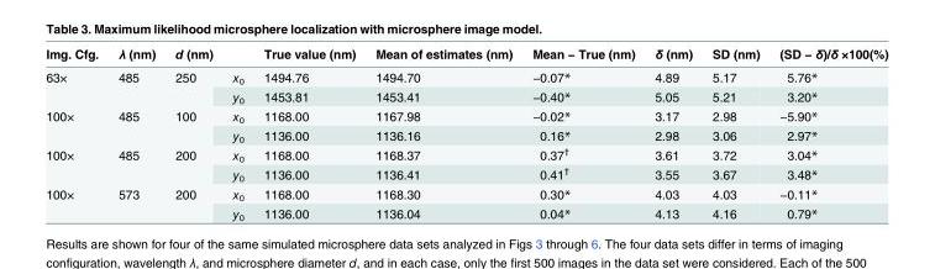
<table><thead><tr><td>Img. Cfg.</td><td>λ (nm)</td><td>d (nm)</td><td></td><td>True value (nm)</td><td>Mean of estimates (nm)</td><td>Mean − True (nm)</td><td>δ (nm)</td><td>SD (nm)</td><td>(SD − δ)/δ ×100(%)</td></tr></thead><tbody><tr><td rowspan="2">63×</td><td rowspan="2">485</td><td rowspan="2">250</td><td>x<sub>0</sub></td><td>1494.76</td><td>1494.70</td><td>−0.07*</td><td>4.89</td><td>5.17</td><td>5.76*</td></tr><tr><td>y<sub>0</sub></td><td>1453.81</td><td>1453.41</td><td>−0.40*</td><td>5.05</td><td>5.21</td><td>3.20*</td></tr><tr><td rowspan="2">100×</td><td rowspan="2">485</td><td rowspan="2">100</td><td>x<sub>0</sub></td><td>1168.00</td><td>1167.98</td><td>−0.02*</td><td>3.17</td><td>2.98</td><td>−5.90*</td></tr><tr><td>y<sub>0</sub></td><td>1136.00</td><td>1136.16</td><td>0.16*</td><td>2.98</td><td>3.06</td><td>2.97*</td></tr><tr><td rowspan="2">100×</td><td rowspan="2">485</td><td rowspan="2">200</td><td>x<sub>0</sub></td><td>1168.00</td><td>1168.37</td><td>0.37<sup>†</sup></td><td>3.61</td><td>3.72</td><td>3.04*</td></tr><tr><td>y<sub>0</sub></td><td>1136.00</td><td>1136.41</td><td>0.41<sup>†</sup></td><td>3.55</td><td>3.67</td><td>3.48*</td></tr><tr><td rowspan="2">100×</td><td rowspan="2">573</td><td rowspan="2">200</td><td>x<sub>0</sub></td><td>1168.00</td><td>1168.30</td><td>0.30*</td><td>4.03</td><td>4.03</td><td>−0.11*</td></tr><tr><td>y<sub>0</sub></td><td>1136.00</td><td>1136.04</td><td>0.04*</td><td>4.13</td><td>4.16</td><td>0.79*</td></tr></tbody></table>